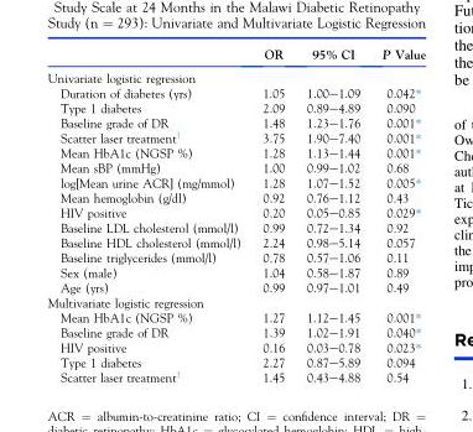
<table><thead><tr><td></td><td>OR</td><td>95% CI</td><td>P Value</td></tr></thead><tbody><tr><td colspan="4">Univariate logistic regression</td></tr><tr><td>Duration of diabetes (yrs)</td><td>1.05</td><td>1.00–1.09</td><td>0.042*</td></tr><tr><td>Type 1 diabetes</td><td>2.09</td><td>0.89–4.89</td><td>0.090</td></tr><tr><td>Baseline grade of DR</td><td>1.48</td><td>1.23–1.76</td><td>0.001*</td></tr><tr><td>Scatter laser treatment†</td><td>3.75</td><td>1.90–7.40</td><td>0.001*</td></tr><tr><td>Mean HbA1c (NGSP %)</td><td>1.28</td><td>1.13–1.44</td><td>0.001*</td></tr><tr><td>Mean sBP (mmHg)</td><td>1.00</td><td>0.99–1.02</td><td>0.68</td></tr><tr><td>log[Mean urine ACR] (mg/mmol)</td><td>1.28</td><td>1.07–1.52</td><td>0.005*</td></tr><tr><td>Mean hemoglobin (g/dl)</td><td>0.92</td><td>0.76–1.12</td><td>0.43</td></tr><tr><td>HIV positive</td><td>0.20</td><td>0.05–0.85</td><td>0.029*</td></tr><tr><td>Baseline LDL cholesterol (mmol/l)</td><td>0.99</td><td>0.72–1.34</td><td>0.92</td></tr><tr><td>Baseline HDL cholesterol (mmol/l)</td><td>2.24</td><td>0.98–5.14</td><td>0.057</td></tr><tr><td>Baseline triglycerides (mmol/l)</td><td>0.78</td><td>0.57–1.06</td><td>0.11</td></tr><tr><td>Sex (male)</td><td>1.04</td><td>0.58–1.87</td><td>0.89</td></tr><tr><td>Age (yrs)</td><td>0.99</td><td>0.97–1.01</td><td>0.49</td></tr><tr><td colspan="4">Multivariate logistic regression</td></tr><tr><td>Mean HbA1c (NGSP %)</td><td>1.27</td><td>1.12–1.45</td><td>0.001*</td></tr><tr><td>Baseline grade of DR</td><td>1.39</td><td>1.02–1.91</td><td>0.040*</td></tr><tr><td>HIV positive</td><td>0.16</td><td>0.03–0.78</td><td>0.023*</td></tr><tr><td>Type 1 diabetes</td><td>2.27</td><td>0.87–5.89</td><td>0.094</td></tr><tr><td>Scatter laser treatment†</td><td>1.45</td><td>0.43–4.88</td><td>0.54</td></tr></tbody></table>